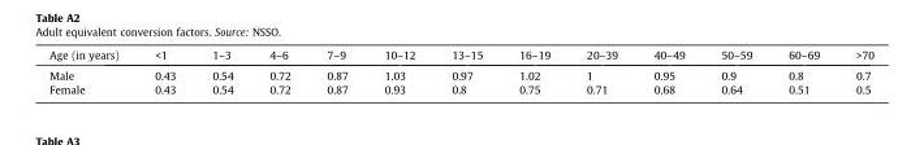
<table><thead><tr><td>Age (in years)</td><td>&lt;1</td><td>1–3</td><td>4–6</td><td>7–9</td><td>10–12</td><td>13–15</td><td>16–19</td><td>20–39</td><td>40–49</td><td>50–59</td><td>60–69</td><td>&gt;70</td></tr></thead><tbody><tr><td>Male</td><td>0.43</td><td>0.54</td><td>0.72</td><td>0.87</td><td>1.03</td><td>0.97</td><td>1.02</td><td>1</td><td>0.95</td><td>0.9</td><td>0.8</td><td>0.7</td></tr><tr><td>Female</td><td>0.43</td><td>0.54</td><td>0.72</td><td>0.87</td><td>0.93</td><td>0.8</td><td>0.75</td><td>0.71</td><td>0.68</td><td>0.64</td><td>0.51</td><td>0.5</td></tr></tbody></table>